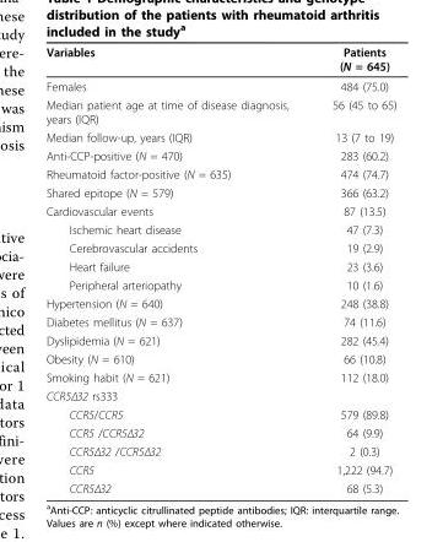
<table><thead><tr><td>Variables</td><td>Patients (N = 645)</td></tr></thead><tbody><tr><td>Females</td><td>484 (75.0)</td></tr><tr><td>Median patient age at time of disease diagnosis, years (IQR)</td><td>56 (45 to 65)</td></tr><tr><td>Median follow-up, years (IQR)</td><td>13 (7 to 19)</td></tr><tr><td>Anti-CCP-positive (N = 470)</td><td>283 (60.2)</td></tr><tr><td>Rheumatoid factor-positive (N = 635)</td><td>474 (74.7)</td></tr><tr><td>Shared epitope (N = 579)</td><td>366 (63.2)</td></tr><tr><td>Cardiovascular events</td><td>87 (13.5)</td></tr><tr><td>Ischemic heart disease</td><td>47 (7.3)</td></tr><tr><td>Cerebrovascular accidents</td><td>19 (2.9)</td></tr><tr><td>Heart failure</td><td>23 (3.6)</td></tr><tr><td>Peripheral arteriopathy</td><td>10 (1.6)</td></tr><tr><td>Hypertension (N = 640)</td><td>248 (38.8)</td></tr><tr><td>Diabetes mellitus (N = 637)</td><td>74 (11.6)</td></tr><tr><td>Dyslipidemia (N = 621)</td><td>282 (45.4)</td></tr><tr><td>Obesity (N = 610)</td><td>66 (10.8)</td></tr><tr><td>Smoking habit (N = 621)</td><td>112 (18.0)</td></tr><tr><td colspan="2">CCR5Δ32 rs333</td></tr><tr><td>CCR5/CCR5</td><td>579 (89.8)</td></tr><tr><td>CCR5 /CCR5Δ32</td><td>64 (9.9)</td></tr><tr><td>CCR5Δ32 /CCR5Δ32</td><td>2 (0.3)</td></tr><tr><td>CCR5</td><td>1,222 (94.7)</td></tr><tr><td>CCR5Δ32</td><td>68 (5.3)</td></tr></tbody></table>